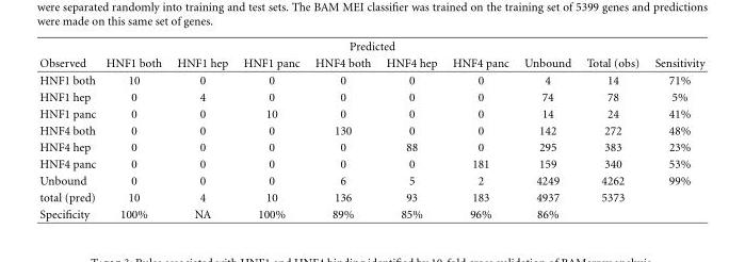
<table><thead><tr><td colspan="10">Predicted</td></tr><tr><td>Observed</td><td>HNF1 both</td><td>HNF1 hep</td><td>HNF1 panc</td><td>HNF4 both</td><td>HNF4 hep</td><td>HNF4 panc</td><td>Unbound</td><td>Total (obs)</td><td>Sensitivity</td></tr></thead><tbody><tr><td>HNF1 both</td><td>10</td><td>0</td><td>0</td><td>0</td><td>0</td><td>0</td><td>4</td><td>14</td><td>71%</td></tr><tr><td>HNF1 hep</td><td>0</td><td>4</td><td>0</td><td>0</td><td>0</td><td>0</td><td>74</td><td>78</td><td>5%</td></tr><tr><td>HNF1 panc</td><td>0</td><td>0</td><td>10</td><td>0</td><td>0</td><td>0</td><td>14</td><td>24</td><td>41%</td></tr><tr><td>HNF4 both</td><td>0</td><td>0</td><td>0</td><td>130</td><td>0</td><td>0</td><td>142</td><td>272</td><td>48%</td></tr><tr><td>HNF4 hep</td><td>0</td><td>0</td><td>0</td><td>0</td><td>88</td><td>0</td><td>295</td><td>383</td><td>23%</td></tr><tr><td>HNF4 panc</td><td>0</td><td>0</td><td>0</td><td>0</td><td>0</td><td>181</td><td>159</td><td>340</td><td>53%</td></tr><tr><td>Unbound</td><td>0</td><td>0</td><td>0</td><td>6</td><td>5</td><td>2</td><td>4249</td><td>4262</td><td>99%</td></tr><tr><td>total (pred)</td><td>10</td><td>4</td><td>10</td><td>136</td><td>93</td><td>183</td><td>4937</td><td>5373</td><td></td></tr><tr><td>Specificity</td><td>100%</td><td>NA</td><td>100%</td><td>89%</td><td>85%</td><td>96%</td><td>86%</td><td></td><td></td></tr></tbody></table>